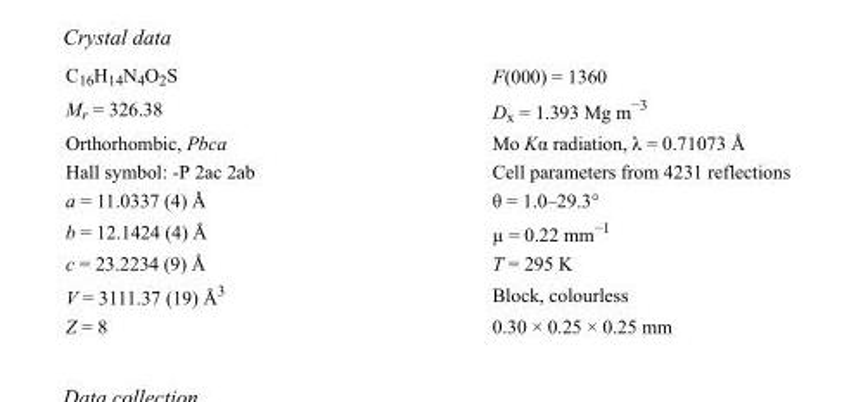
<table><tbody><tr><td>C<sub>16</sub>H<sub>14</sub>N<sub>4</sub>O<sub>2</sub>S</td><td>F(000) = 1360</td></tr><tr><td>M<sub>r</sub> = 326.38</td><td>D<sub>x</sub> = 1.393 Mg m<sup>−3</sup></td></tr><tr><td>Orthorhombic, Pbca</td><td>Mo Kα radiation, λ = 0.71073 Å</td></tr><tr><td>Hall symbol: -P 2ac 2ab</td><td>Cell parameters from 4231 reflections</td></tr><tr><td>a = 11.0337 (4) Å</td><td>θ = 1.0–29.3°</td></tr><tr><td>b = 12.1424 (4) Å</td><td>µ = 0.22 mm<sup>−1</sup></td></tr><tr><td>c = 23.2234 (9) Å</td><td>T = 295 K</td></tr><tr><td>V = 3111.37 (19) Å<sup>3</sup></td><td>Block, colourless</td></tr><tr><td>Z = 8</td><td>0.30 × 0.25 × 0.25 mm</td></tr></tbody></table>